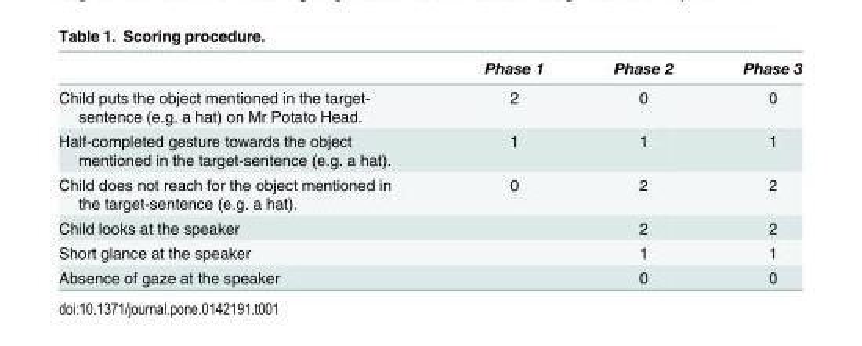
<table><thead><tr><td></td><td>Phase 1</td><td>Phase 2</td><td>Phase 3</td></tr></thead><tbody><tr><td>Child puts the object mentioned in the target- sentence (e.g. a hat) on Mr Potato Head.</td><td>2</td><td>0</td><td>0</td></tr><tr><td>Half-completed gesture towards the object mentioned in the target-sentence (e.g. a hat).</td><td>1</td><td>1</td><td>1</td></tr><tr><td>Child does not reach for the object mentioned in the target-sentence (e.g. a hat).</td><td>0</td><td>2</td><td>2</td></tr><tr><td colspan="2">Child looks at the speaker</td><td>2</td><td>2</td></tr><tr><td colspan="2">Short glance at the speaker</td><td>1</td><td>1</td></tr><tr><td colspan="2">Absence of gaze at the speaker</td><td>0</td><td>0</td></tr></tbody></table>